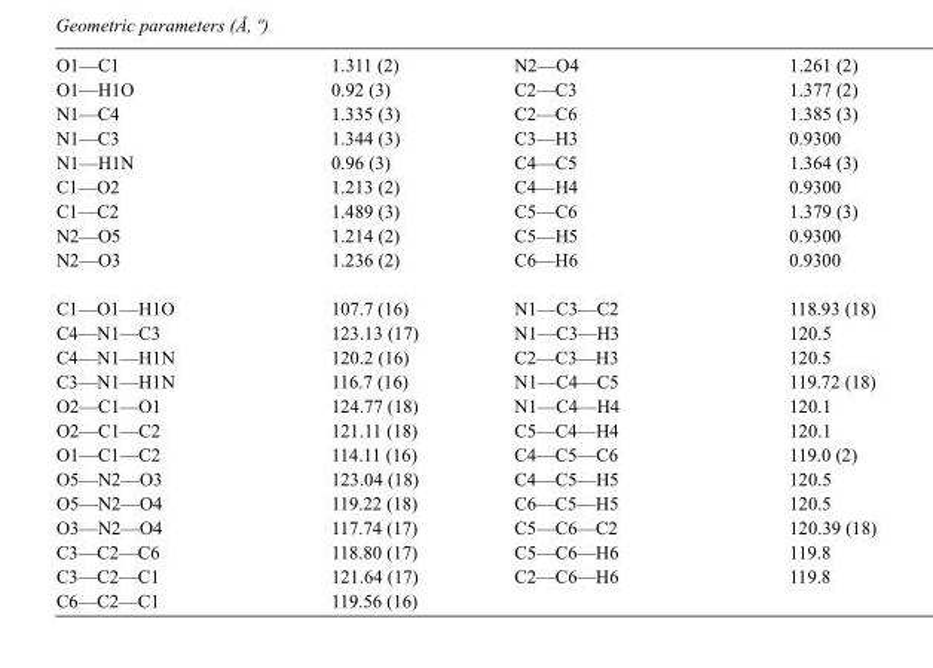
<table><tbody><tr><td>O1—C1</td><td>1.311 (2)</td><td>N2—O4</td><td>1.261 (2)</td></tr><tr><td>O1—H1O</td><td>0.92 (3)</td><td>C2—C3</td><td>1.377 (2)</td></tr><tr><td>N1—C4</td><td>1.335 (3)</td><td>C2—C6</td><td>1.385 (3)</td></tr><tr><td>N1—C3</td><td>1.344 (3)</td><td>C3—H3</td><td>0.9300</td></tr><tr><td>N1—H1N</td><td>0.96 (3)</td><td>C4—C5</td><td>1.364 (3)</td></tr><tr><td>C1—O2</td><td>1.213 (2)</td><td>C4—H4</td><td>0.9300</td></tr><tr><td>C1—C2</td><td>1.489 (3)</td><td>C5—C6</td><td>1.379 (3)</td></tr><tr><td>N2—O5</td><td>1.214 (2)</td><td>C5—H5</td><td>0.9300</td></tr><tr><td>N2—O3</td><td>1.236 (2)</td><td>C6—H6</td><td>0.9300</td></tr><tr><td>C1—O1—H1O</td><td>107.7 (16)</td><td>N1—C3—C2</td><td>118.93 (18)</td></tr><tr><td>C4—N1—C3</td><td>123.13 (17)</td><td>N1—C3—H3</td><td>120.5</td></tr><tr><td>C4—N1—H1N</td><td>120.2 (16)</td><td>C2—C3—H3</td><td>120.5</td></tr><tr><td>C3—N1—H1N</td><td>116.7 (16)</td><td>N1—C4—C5</td><td>119.72 (18)</td></tr><tr><td>O2—C1—O1</td><td>124.77 (18)</td><td>N1—C4—H4</td><td>120.1</td></tr><tr><td>O2—C1—C2</td><td>121.11 (18)</td><td>C5—C4—H4</td><td>120.1</td></tr><tr><td>O1—C1—C2</td><td>114.11 (16)</td><td>C4—C5—C6</td><td>119.0 (2)</td></tr><tr><td>O5—N2—O3</td><td>123.04 (18)</td><td>C4—C5—H5</td><td>120.5</td></tr><tr><td>O5—N2—O4</td><td>119.22 (18)</td><td>C6—C5—H5</td><td>120.5</td></tr><tr><td>O3—N2—O4</td><td>117.74 (17)</td><td>C5—C6—C2</td><td>120.39 (18)</td></tr><tr><td>C3—C2—C6</td><td>118.80 (17)</td><td>C5—C6—H6</td><td>119.8</td></tr><tr><td>C3—C2—C1</td><td>121.64 (17)</td><td>C2—C6—H6</td><td>119.8</td></tr><tr><td>C6—C2—C1</td><td>119.56 (16)</td><td></td><td></td></tr></tbody></table>